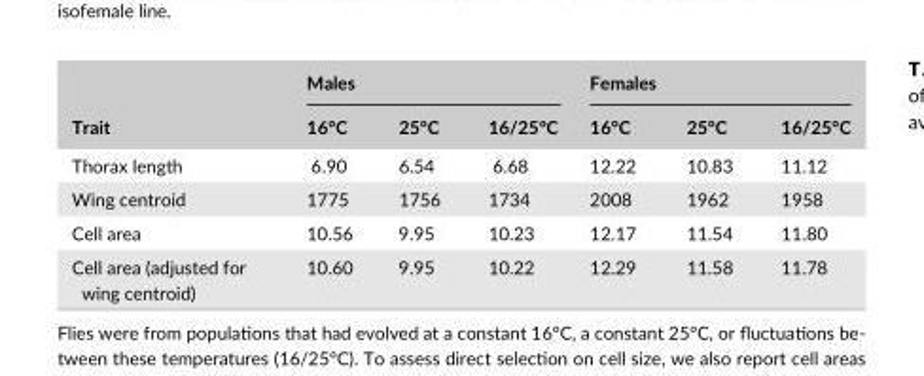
<table><thead><tr><td rowspan="2">Trait</td><td colspan="3">Males</td><td colspan="3">Females</td></tr><tr><td>16°C</td><td>25°C</td><td>16/25°C</td><td>16°C</td><td>25°C</td><td>16/25°C</td></tr></thead><tbody><tr><td>Thorax length</td><td>6.90</td><td>6.54</td><td>6.68</td><td>12.22</td><td>10.83</td><td>11.12</td></tr><tr><td>Wing centroid</td><td>1775</td><td>1756</td><td>1734</td><td>2008</td><td>1962</td><td>1958</td></tr><tr><td>Cell area</td><td>10.56</td><td>9.95</td><td>10.23</td><td>12.17</td><td>11.54</td><td>11.80</td></tr><tr><td>Cell area (adjusted for wing centroid)</td><td>10.60</td><td>9.95</td><td>10.22</td><td>12.29</td><td>11.58</td><td>11.78</td></tr></tbody></table>